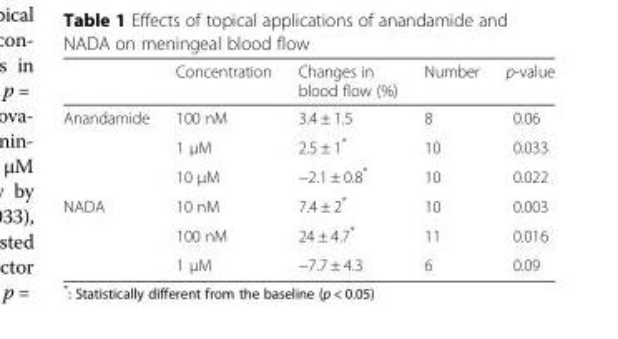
<table><thead><tr><td></td><td>Concentration</td><td>Changes in blood flow (%)</td><td>Number</td><td>p-value</td></tr></thead><tbody><tr><td rowspan="3">Anandamide</td><td>100 nM</td><td>3.4 ± 1.5</td><td>8</td><td>0.06</td></tr><tr><td>1 μM</td><td>2.5 ± 1*</td><td>10</td><td>0.033</td></tr><tr><td>10 μM</td><td>−2.1 ± 0.8*</td><td>10</td><td>0.022</td></tr><tr><td rowspan="3">NADA</td><td>10 nM</td><td>7.4 ± 2*</td><td>10</td><td>0.003</td></tr><tr><td>100 nM</td><td>24 ± 4.7*</td><td>11</td><td>0.016</td></tr><tr><td>1 μM</td><td>−7.7 ± 4.3</td><td>6</td><td>0.09</td></tr></tbody></table>